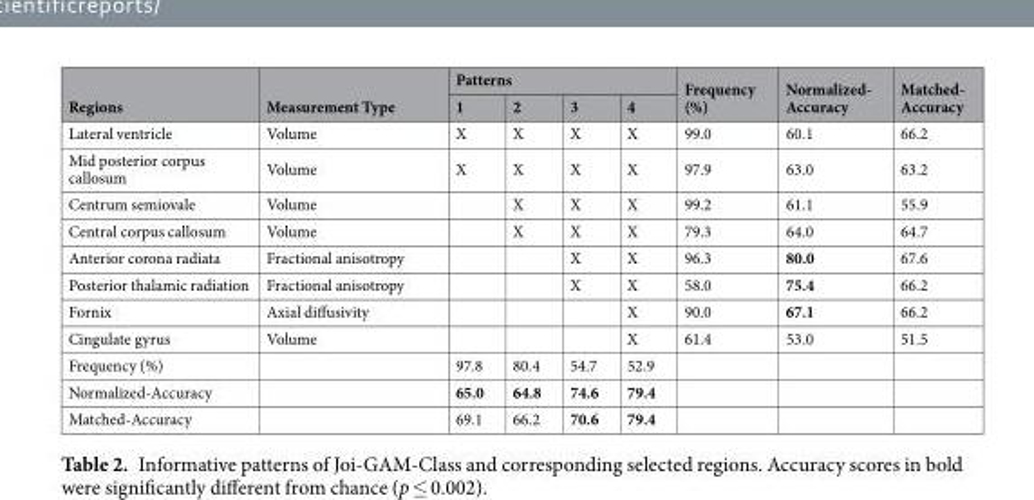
<table><thead><tr><td rowspan="2">Regions</td><td rowspan="2">Measurement Type</td><td colspan="4">Patterns</td><td rowspan="2">Frequency (%)</td><td rowspan="2">Normalized- Accuracy</td><td rowspan="2">Matched- Accuracy</td></tr><tr><td>1</td><td>2</td><td>3</td><td>4</td></tr></thead><tbody><tr><td>Lateral ventricle</td><td>Volume</td><td>X</td><td>X</td><td>X</td><td>X</td><td>99.0</td><td>60.1</td><td>66.2</td></tr><tr><td>Mid posterior corpus callosum</td><td>Volume</td><td>X</td><td>X</td><td>X</td><td>X</td><td>97.9</td><td>63.0</td><td>63.2</td></tr><tr><td>Centrum semiovale</td><td>Volume</td><td></td><td>X</td><td>X</td><td>X</td><td>99.2</td><td>61.1</td><td>55.9</td></tr><tr><td>Central corpus callosum</td><td>Volume</td><td></td><td>X</td><td>X</td><td>X</td><td>79.3</td><td>64.0</td><td>64.7</td></tr><tr><td>Anterior corona radiata</td><td>Fractional anisotropy</td><td></td><td></td><td>X</td><td>X</td><td>96.3</td><td>80.0</td><td>67.6</td></tr><tr><td>Posterior thalamic radiation</td><td>Fractional anisotropy</td><td></td><td></td><td>X</td><td>X</td><td>58.0</td><td>75.4</td><td>66.2</td></tr><tr><td>Fornix</td><td>Axial diffusivity</td><td></td><td></td><td></td><td>X</td><td>90.0</td><td>67.1</td><td>66.2</td></tr><tr><td>Cingulate gyrus</td><td>Volume</td><td></td><td></td><td></td><td>X</td><td>61.4</td><td>53.0</td><td>51.5</td></tr><tr><td>Frequency (%)</td><td></td><td>97.8</td><td>80.4</td><td>54.7</td><td>52.9</td><td></td><td></td><td></td></tr><tr><td>Normalized-Accuracy</td><td></td><td>65.0</td><td>64.8</td><td>74.6</td><td>79.4</td><td></td><td></td><td></td></tr><tr><td>Matched-Accuracy</td><td></td><td>69.1</td><td>66.2</td><td>70.6</td><td>79.4</td><td></td><td></td><td></td></tr></tbody></table>